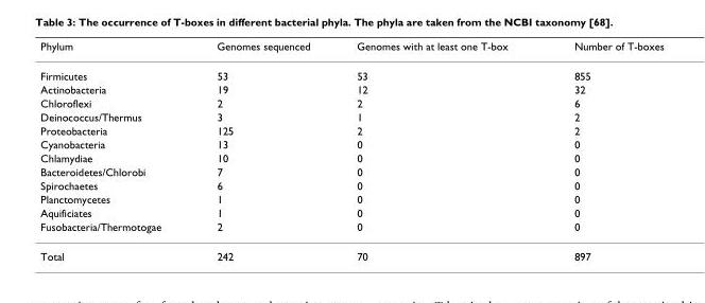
<table><thead><tr><td>Phylum</td><td>Genomes sequenced</td><td>Genomes with at least one T-box</td><td>Number of T-boxes</td></tr></thead><tbody><tr><td>Firmicutes</td><td>53</td><td>53</td><td>855</td></tr><tr><td>Actinobacteria</td><td>19</td><td>12</td><td>32</td></tr><tr><td>Chloroflexi</td><td>2</td><td>2</td><td>6</td></tr><tr><td>Deinococcus/Thermus</td><td>3</td><td>1</td><td>2</td></tr><tr><td>Proteobacteria</td><td>125</td><td>2</td><td>2</td></tr><tr><td>Cyanobacteria</td><td>13</td><td>0</td><td>0</td></tr><tr><td>Chlamydiae</td><td>10</td><td>0</td><td>0</td></tr><tr><td>Bacteroidetes/Chlorobi</td><td>7</td><td>0</td><td>0</td></tr><tr><td>Spirochaetes</td><td>6</td><td>0</td><td>0</td></tr><tr><td>Planctomycetes</td><td>1</td><td>0</td><td>0</td></tr><tr><td>Aquificiates</td><td>1</td><td>0</td><td>0</td></tr><tr><td>Fusobacteria/Thermotogae</td><td>2</td><td>0</td><td>0</td></tr><tr><td>Total</td><td>242</td><td>70</td><td>897</td></tr></tbody></table>